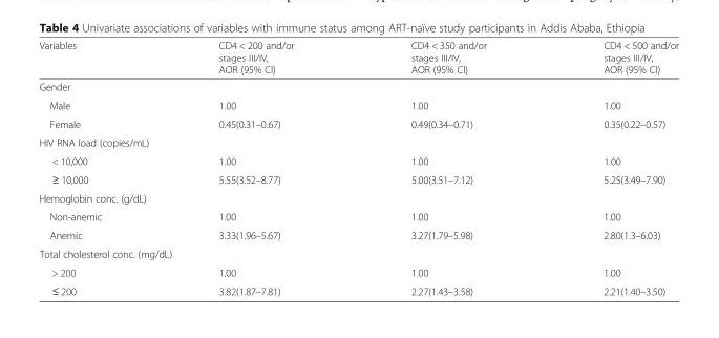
<table><thead><tr><td>Variables</td><td>CD4 &lt; 200 and/or stages III/IV, AOR (95% CI)</td><td>CD4 &lt; 350 and/or stages III/IV, AOR (95% CI)</td><td>CD4 &lt; 500 and/or stages III/IV, AOR (95% CI)</td></tr></thead><tbody><tr><td colspan="4">Gender</td></tr><tr><td>Male</td><td>1.00</td><td>1.00</td><td>1.00</td></tr><tr><td>Female</td><td>0.45(0.31–0.67)</td><td>0.49(0.34–0.71)</td><td>0.35(0.22–0.57)</td></tr><tr><td colspan="4">HIV RNA load (copies/mL)</td></tr><tr><td>&lt; 10,000</td><td>1.00</td><td>1.00</td><td>1.00</td></tr><tr><td>≥ 10,000</td><td>5.55(3.52–8.77)</td><td>5.00(3.51–7.12)</td><td>5.25(3.49–7.90)</td></tr><tr><td colspan="4">Hemoglobin conc. (g/dL)</td></tr><tr><td>Non-anemic</td><td>1.00</td><td>1.00</td><td>1.00</td></tr><tr><td>Anemic</td><td>3.33(1.96–5.67)</td><td>3.27(1.79–5.98)</td><td>2.80(1.3–6.03)</td></tr><tr><td colspan="4">Total cholesterol conc. (mg/dL)</td></tr><tr><td>&gt; 200</td><td>1.00</td><td>1.00</td><td>1.00</td></tr><tr><td>≤ 200</td><td>3.82(1.87–7.81)</td><td>2.27(1.43–3.58)</td><td>2.21(1.40–3.50)</td></tr></tbody></table>